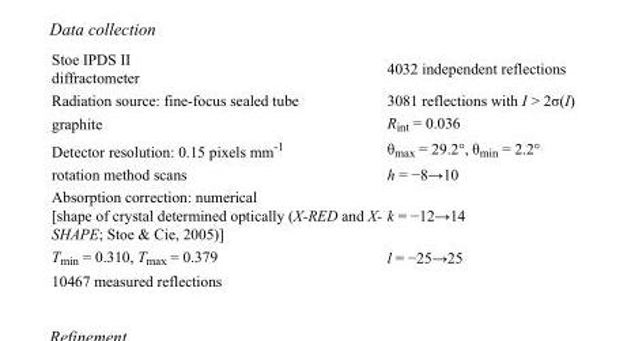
<table><tbody><tr><td>Stoe IPDS II diffractometer</td><td>4032 independent reflections</td></tr><tr><td>Radiation source: fine-focus sealed tube</td><td>3081 reflections with I &gt; 2σ(I)</td></tr><tr><td>graphite</td><td>R<sub>int</sub> = 0.036</td></tr><tr><td>Detector resolution: 0.15 pixels mm<sup>-1</sup></td><td>θ<sub>max</sub> = 29.2°, θ<sub>min</sub> = 2.2°</td></tr><tr><td>rotation method scans</td><td>h = −8→10</td></tr><tr><td>Absorption correction: numerical [shape of crystal determined optically (X-RED and X- SHAPE; Stoe &amp; Cie, 2005)]</td><td>k = −12→14</td></tr><tr><td>T<sub>min</sub> = 0.310, T<sub>max</sub> = 0.379</td><td>l = −25→25</td></tr><tr><td>10467 measured reflections</td><td></td></tr></tbody></table>